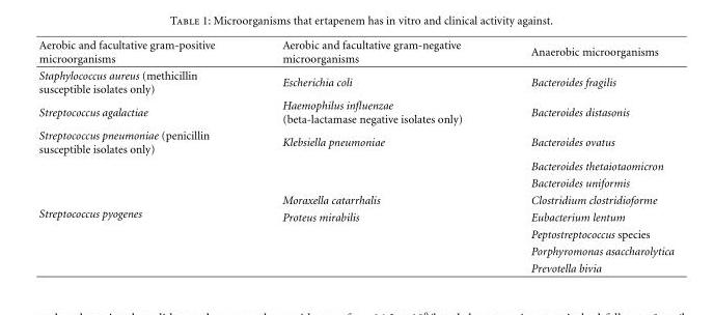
<table><thead><tr><td>Aerobic and facultative gram-positive microorganisms</td><td>Aerobic and facultative gram-negative microorganisms</td><td>Anaerobic microorganisms</td></tr></thead><tbody><tr><td>Staphylococcus aureus (methicillin susceptible isolates only)</td><td>Escherichia coli</td><td>Bacteroides fragilis</td></tr><tr><td>Streptococcus agalactiae</td><td>Haemophilus influenzae (beta-lactamase negative isolates only)</td><td>Bacteroides distasonis</td></tr><tr><td>Streptococcus pneumoniae (penicillin susceptible isolates only)</td><td>Klebsiella pneumoniae</td><td>Bacteroides ovatus</td></tr><tr><td rowspan="7">Streptococcus pyogenes</td><td></td><td>Bacteroides thetaiotaomicron</td></tr><tr><td></td><td>Bacteroides uniformis</td></tr><tr><td>Moraxella catarrhalis</td><td>Clostridium clostridioforme</td></tr><tr><td>Proteus mirabilis</td><td>Eubacterium lentum</td></tr><tr><td></td><td>Peptostreptococcus species</td></tr><tr><td></td><td>Porphyromonas asaccharolytica</td></tr><tr><td></td><td>Prevotella bivia</td></tr></tbody></table>